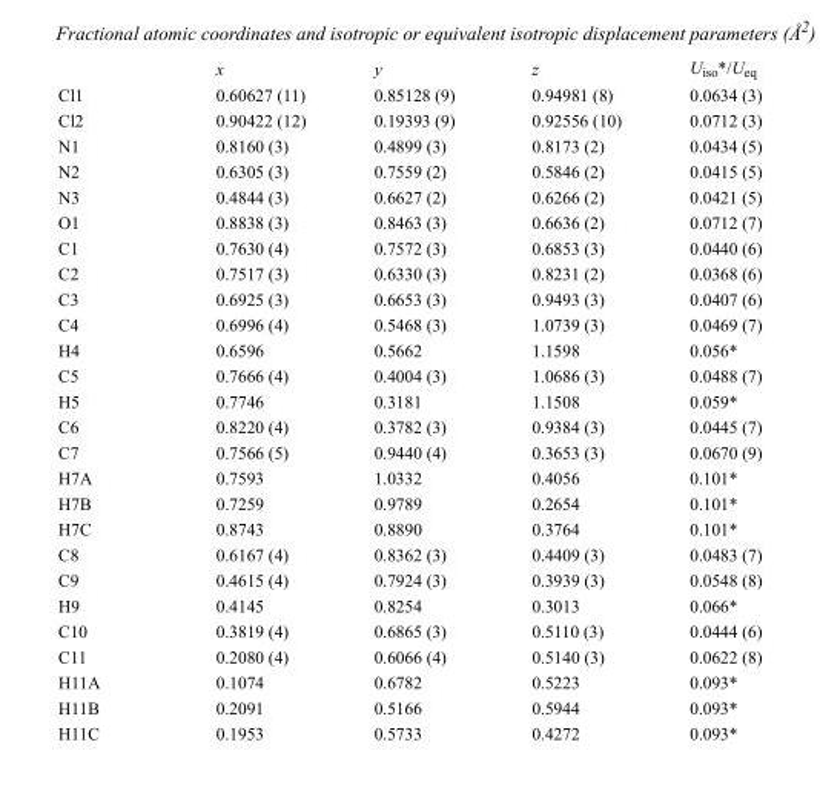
<table><thead><tr><td></td><td>x</td><td>y</td><td>z</td><td>U<sub>iso</sub>*/U<sub>eq</sub></td></tr></thead><tbody><tr><td>Cl1</td><td>0.60627 (11)</td><td>0.85128 (9)</td><td>0.94981 (8)</td><td>0.0634 (3)</td></tr><tr><td>Cl2</td><td>0.90422 (12)</td><td>0.19393 (9)</td><td>0.92556 (10)</td><td>0.0712 (3)</td></tr><tr><td>N1</td><td>0.8160 (3)</td><td>0.4899 (3)</td><td>0.8173 (2)</td><td>0.0434 (5)</td></tr><tr><td>N2</td><td>0.6305 (3)</td><td>0.7559 (2)</td><td>0.5846 (2)</td><td>0.0415 (5)</td></tr><tr><td>N3</td><td>0.4844 (3)</td><td>0.6627 (2)</td><td>0.6266 (2)</td><td>0.0421 (5)</td></tr><tr><td>O1</td><td>0.8838 (3)</td><td>0.8463 (3)</td><td>0.6636 (2)</td><td>0.0712 (7)</td></tr><tr><td>C1</td><td>0.7630 (4)</td><td>0.7572 (3)</td><td>0.6853 (3)</td><td>0.0440 (6)</td></tr><tr><td>C2</td><td>0.7517 (3)</td><td>0.6330 (3)</td><td>0.8231 (2)</td><td>0.0368 (6)</td></tr><tr><td>C3</td><td>0.6925 (3)</td><td>0.6653 (3)</td><td>0.9493 (3)</td><td>0.0407 (6)</td></tr><tr><td>C4</td><td>0.6996 (4)</td><td>0.5468 (3)</td><td>1.0739 (3)</td><td>0.0469 (7)</td></tr><tr><td>H4</td><td>0.6596</td><td>0.5662</td><td>1.1598</td><td>0.056*</td></tr><tr><td>C5</td><td>0.7666 (4)</td><td>0.4004 (3)</td><td>1.0686 (3)</td><td>0.0488 (7)</td></tr><tr><td>H5</td><td>0.7746</td><td>0.3181</td><td>1.1508</td><td>0.059*</td></tr><tr><td>C6</td><td>0.8220 (4)</td><td>0.3782 (3)</td><td>0.9384 (3)</td><td>0.0445 (7)</td></tr><tr><td>C7</td><td>0.7566 (5)</td><td>0.9440 (4)</td><td>0.3653 (3)</td><td>0.0670 (9)</td></tr><tr><td>H7A</td><td>0.7593</td><td>1.0332</td><td>0.4056</td><td>0.101*</td></tr><tr><td>H7B</td><td>0.7259</td><td>0.9789</td><td>0.2654</td><td>0.101*</td></tr><tr><td>H7C</td><td>0.8743</td><td>0.8890</td><td>0.3764</td><td>0.101*</td></tr><tr><td>C8</td><td>0.6167 (4)</td><td>0.8362 (3)</td><td>0.4409 (3)</td><td>0.0483 (7)</td></tr><tr><td>C9</td><td>0.4615 (4)</td><td>0.7924 (3)</td><td>0.3939 (3)</td><td>0.0548 (8)</td></tr><tr><td>H9</td><td>0.4145</td><td>0.8254</td><td>0.3013</td><td>0.066*</td></tr><tr><td>C10</td><td>0.3819 (4)</td><td>0.6865 (3)</td><td>0.5110 (3)</td><td>0.0444 (6)</td></tr><tr><td>C11</td><td>0.2080 (4)</td><td>0.6066 (4)</td><td>0.5140 (3)</td><td>0.0622 (8)</td></tr><tr><td>H11A</td><td>0.1074</td><td>0.6782</td><td>0.5223</td><td>0.093*</td></tr><tr><td>H11B</td><td>0.2091</td><td>0.5166</td><td>0.5944</td><td>0.093*</td></tr><tr><td>H11C</td><td>0.1953</td><td>0.5733</td><td>0.4272</td><td>0.093*</td></tr></tbody></table>